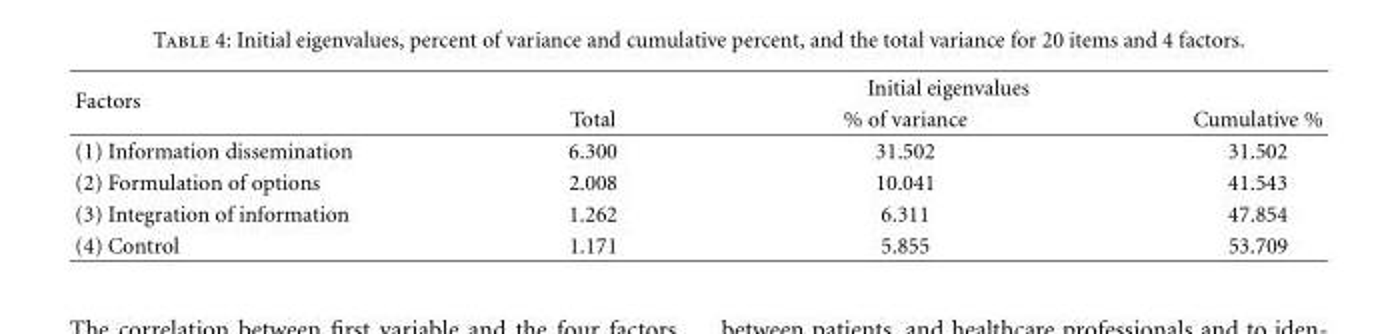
<table><thead><tr><td rowspan="2">Factors</td><td colspan="3">Initial eigenvalues</td></tr><tr><td>Total</td><td>% of variance</td><td>Cumulative %</td></tr></thead><tbody><tr><td>(1) Information dissemination</td><td>6.300</td><td>31.502</td><td>31.502</td></tr><tr><td>(2) Formulation of options</td><td>2.008</td><td>10.041</td><td>41.543</td></tr><tr><td>(3) Integration of information</td><td>1.262</td><td>6.311</td><td>47.854</td></tr><tr><td>(4) Control</td><td>1.171</td><td>5.855</td><td>53.709</td></tr></tbody></table>